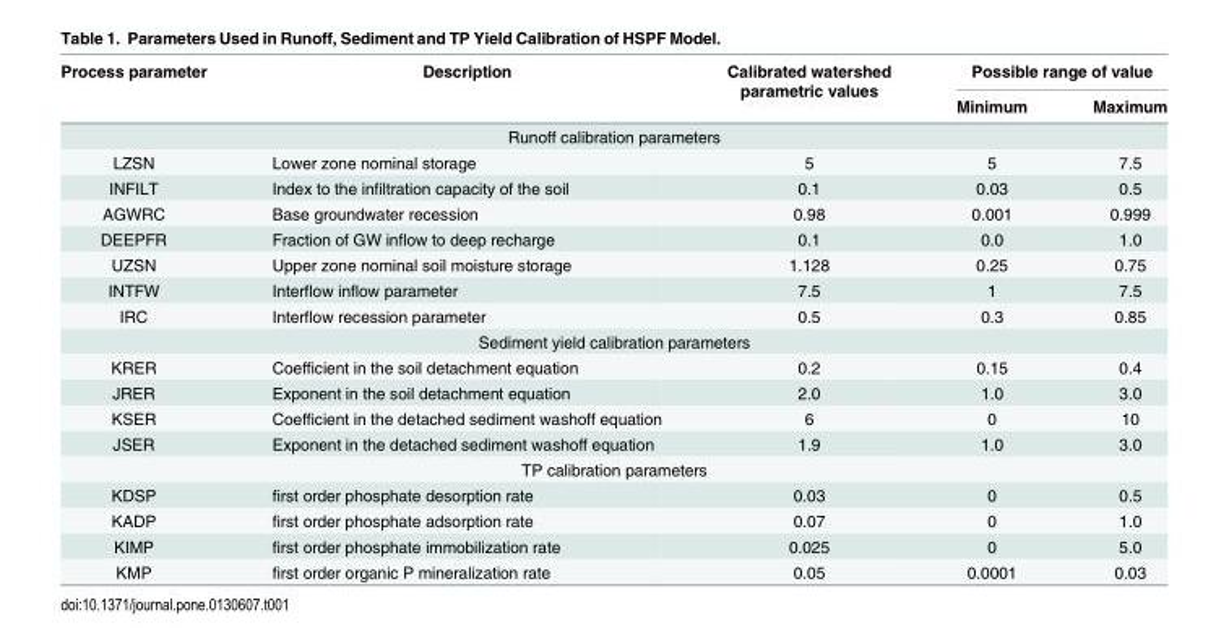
<table><thead><tr><td rowspan="2">Process parameter</td><td rowspan="2">Description</td><td rowspan="2">Calibrated watershed parametric values</td><td colspan="2">Possible range of value</td></tr><tr><td>Minimum</td><td>Maximum</td></tr></thead><tbody><tr><td colspan="5">Runoff calibration parameters</td></tr><tr><td>LZSN</td><td>Lower zone nominal storage</td><td>5</td><td>5</td><td>7.5</td></tr><tr><td>INFILT</td><td>Index to the infiltration capacity of the soil</td><td>0.1</td><td>0.03</td><td>0.5</td></tr><tr><td>AGWRC</td><td>Base groundwater recession</td><td>0.98</td><td>0.001</td><td>0.999</td></tr><tr><td>DEEPFR</td><td>Fraction of GW inflow to deep recharge</td><td>0.1</td><td>0.0</td><td>1.0</td></tr><tr><td>UZSN</td><td>Upper zone nominal soil moisture storage</td><td>1.128</td><td>0.25</td><td>0.75</td></tr><tr><td>INTFW</td><td>Interflow inflow parameter</td><td>7.5</td><td>1</td><td>7.5</td></tr><tr><td>IRC</td><td>Interflow recession parameter</td><td>0.5</td><td>0.3</td><td>0.85</td></tr><tr><td colspan="5">Sediment yield calibration parameters</td></tr><tr><td>KRER</td><td>Coefficient in the soil detachment equation</td><td>0.2</td><td>0.15</td><td>0.4</td></tr><tr><td>JRER</td><td>Exponent in the soil detachment equation</td><td>2.0</td><td>1.0</td><td>3.0</td></tr><tr><td>KSER</td><td>Coefficient in the detached sediment washoff equation</td><td>6</td><td>0</td><td>10</td></tr><tr><td>JSER</td><td>Exponent in the detached sediment washoff equation</td><td>1.9</td><td>1.0</td><td>3.0</td></tr><tr><td colspan="5">TP calibration parameters</td></tr><tr><td>KDSP</td><td>first order phosphate desorption rate</td><td>0.03</td><td>0</td><td>0.5</td></tr><tr><td>KADP</td><td>first order phosphate adsorption rate</td><td>0.07</td><td>0</td><td>1.0</td></tr><tr><td>KIMP</td><td>first order phosphate immobilization rate</td><td>0.025</td><td>0</td><td>5.0</td></tr><tr><td>KMP</td><td>first order organic P mineralization rate</td><td>0.05</td><td>0.0001</td><td>0.03</td></tr></tbody></table>